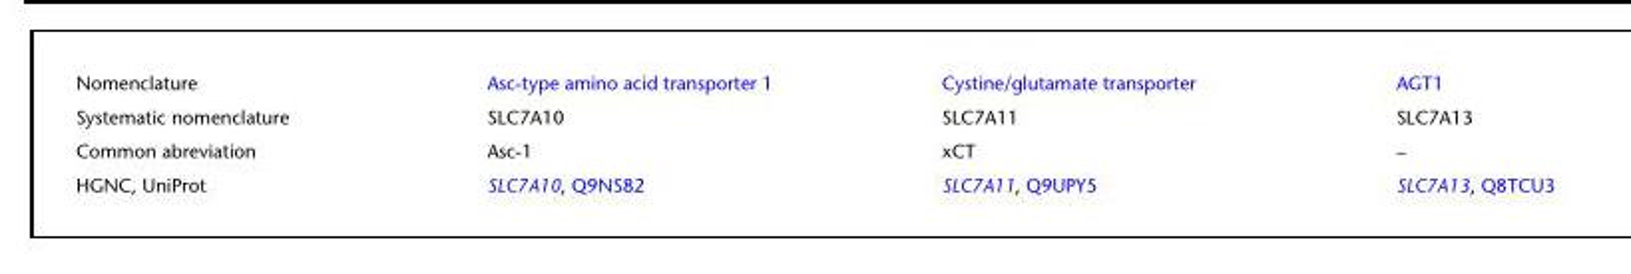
<table><tbody><tr><td>Nomenclature</td><td>Asc-type amino acid transporter 1</td><td>Cystine/glutamate transporter</td><td>AGT1</td></tr><tr><td>Systematic nomenclature</td><td>SLC7A10</td><td>SLC7A11</td><td>SLC7A13</td></tr><tr><td>Common abreviation</td><td>Asc-1</td><td>xCT</td><td>–</td></tr><tr><td>HGNC, UniProt</td><td>SLC7A10, Q9NS82</td><td>SLC7A11, Q9UPY5</td><td>SLC7A13, Q8TCU3</td></tr></tbody></table>